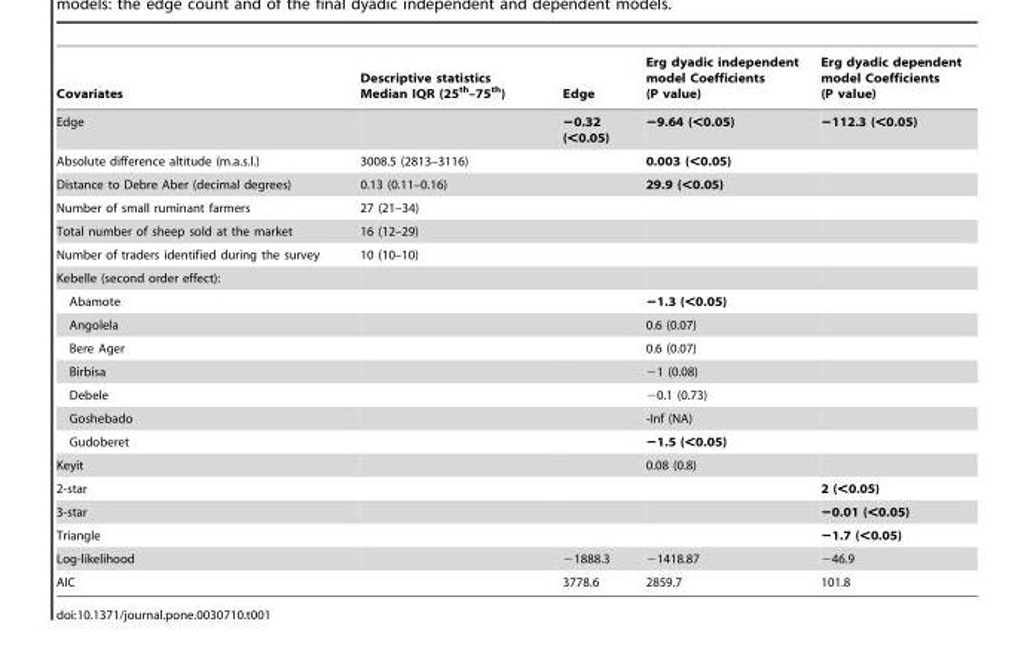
<table><thead><tr><td>Covariates</td><td>Descriptive statistics Median IQR (25<sup>th</sup>–75<sup>th</sup>)</td><td>Edge</td><td>Erg dyadic independent model Coefficients (P value)</td><td>Erg dyadic dependent model Coefficients (P value)</td></tr></thead><tbody><tr><td>Edge</td><td></td><td>−0.32 (&lt;0.05)</td><td>−9.64 (&lt;0.05)</td><td>−112.3 (&lt;0.05)</td></tr><tr><td>Absolute difference altitude (m.a.s.l.)</td><td>3008.5 (2813–3116)</td><td></td><td>0.003 (&lt;0.05)</td><td></td></tr><tr><td>Distance to Debre Aber (decimal degrees)</td><td>0.13 (0.11–0.16)</td><td></td><td>29.9 (&lt;0.05)</td><td></td></tr><tr><td>Number of small ruminant farmers</td><td>27 (21–34)</td><td></td><td></td><td></td></tr><tr><td>Total number of sheep sold at the market</td><td>16 (12–29)</td><td></td><td></td><td></td></tr><tr><td>Number of traders identified during the survey</td><td>10 (10–10)</td><td></td><td></td><td></td></tr><tr><td colspan="5">Kebelle (second order effect):</td></tr><tr><td>Abamote</td><td></td><td></td><td>−1.3 (&lt;0.05)</td><td></td></tr><tr><td>Angolela</td><td></td><td></td><td>0.6 (0.07)</td><td></td></tr><tr><td>Bere Ager</td><td></td><td></td><td>0.6 (0.07)</td><td></td></tr><tr><td>Birbisa</td><td></td><td></td><td>−1 (0.08)</td><td></td></tr><tr><td>Debele</td><td></td><td></td><td>−0.1 (0.73)</td><td></td></tr><tr><td>Goshebado</td><td></td><td></td><td>-Inf (NA)</td><td></td></tr><tr><td>Gudoberet</td><td></td><td></td><td>−1.5 (&lt;0.05)</td><td></td></tr><tr><td>Keyit</td><td></td><td></td><td>0.08 (0.8)</td><td></td></tr><tr><td>2-star</td><td></td><td></td><td></td><td>2 (&lt;0.05)</td></tr><tr><td>3-star</td><td></td><td></td><td></td><td>−0.01 (&lt;0.05)</td></tr><tr><td>Triangle</td><td></td><td></td><td></td><td>−1.7 (&lt;0.05)</td></tr><tr><td>Log-likelihood</td><td></td><td>−1888.3</td><td>−1418.87</td><td>−46.9</td></tr><tr><td>AIC</td><td></td><td>3778.6</td><td>2859.7</td><td>101.8</td></tr></tbody></table>